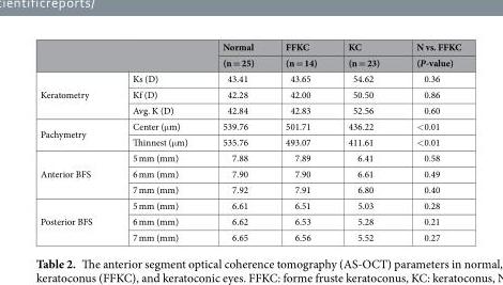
<table><thead><tr><td rowspan="2"></td><td rowspan="2"></td><td rowspan="2">Normal (n = 25)</td><td rowspan="2">FFKC (n = 14)</td><td rowspan="2">KC (n = 23)</td><td rowspan="2">N vs. FFKC (P-value)</td></tr><tr></tr></thead><tbody><tr><td rowspan="3">Keratometry</td><td>Ks (D)</td><td>43.41</td><td>43.65</td><td>54.62</td><td>0.36</td></tr><tr><td>Kf (D)</td><td>42.28</td><td>42.00</td><td>50.50</td><td>0.86</td></tr><tr><td>Avg. K (D)</td><td>42.84</td><td>42.83</td><td>52.56</td><td>0.60</td></tr><tr><td rowspan="2">Pachymetry</td><td>Center (μm)</td><td>539.76</td><td>501.71</td><td>436.22</td><td>&lt;0.01</td></tr><tr><td>Thinnest (μm)</td><td>535.76</td><td>493.07</td><td>411.61</td><td>&lt;0.01</td></tr><tr><td rowspan="3">Anterior BFS</td><td>5 mm (mm)</td><td>7.88</td><td>7.89</td><td>6.41</td><td>0.58</td></tr><tr><td>6 mm (mm)</td><td>7.90</td><td>7.90</td><td>6.61</td><td>0.49</td></tr><tr><td>7 mm (mm)</td><td>7.92</td><td>7.91</td><td>6.80</td><td>0.40</td></tr><tr><td rowspan="3">Posterior BFS</td><td>5 mm (mm)</td><td>6.61</td><td>6.51</td><td>5.03</td><td>0.28</td></tr><tr><td>6 mm (mm)</td><td>6.62</td><td>6.53</td><td>5.28</td><td>0.21</td></tr><tr><td>7 mm (mm)</td><td>6.65</td><td>6.56</td><td>5.52</td><td>0.27</td></tr></tbody></table>